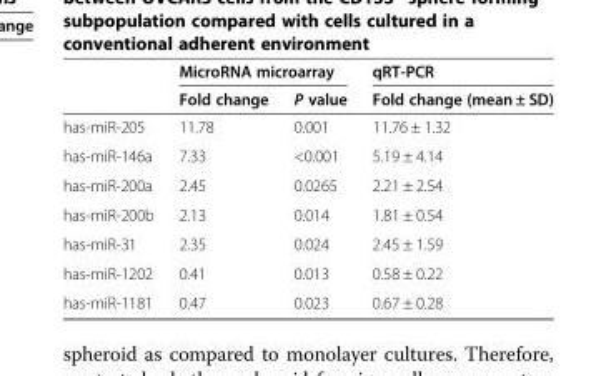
<table><thead><tr><td rowspan="2"></td><td colspan="2">MicroRNA microarray</td><td rowspan="2">qRT-PCR Fold change (mean ± SD)</td></tr><tr><td>Fold change</td><td>P value</td></tr></thead><tbody><tr><td>has-miR-205</td><td>11.78</td><td>0.001</td><td>11.76 ± 1.32</td></tr><tr><td>has-miR-146a</td><td>7.33</td><td>&lt;0.001</td><td>5.19 ± 4.14</td></tr><tr><td>has-miR-200a</td><td>2.45</td><td>0.0265</td><td>2.21 ± 2.54</td></tr><tr><td>has-miR-200b</td><td>2.13</td><td>0.014</td><td>1.81 ± 0.54</td></tr><tr><td>has-miR-31</td><td>2.35</td><td>0.024</td><td>2.45 ± 1.59</td></tr><tr><td>has-miR-1202</td><td>0.41</td><td>0.013</td><td>0.58 ± 0.22</td></tr><tr><td>has-miR-1181</td><td>0.47</td><td>0.023</td><td>0.67 ± 0.28</td></tr></tbody></table>